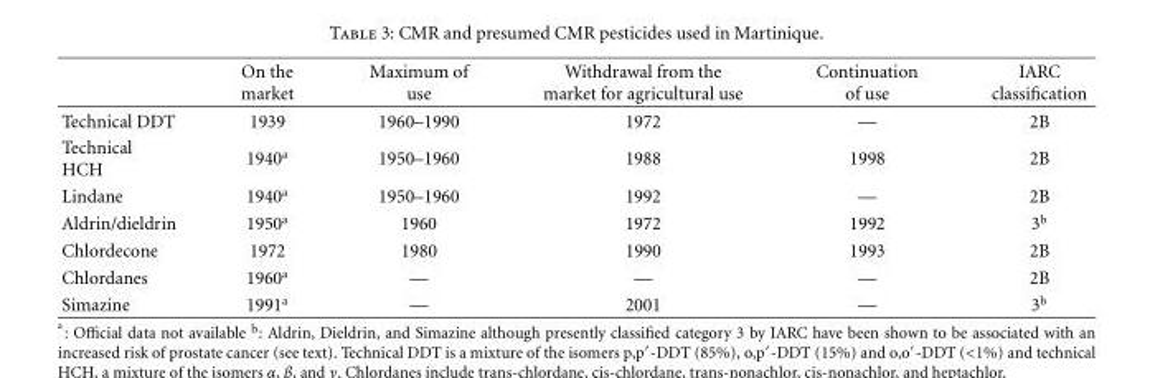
<table><thead><tr><td></td><td>On the market</td><td>Maximum of use</td><td>Withdrawal from the market for agricultural use</td><td>Continuation of use</td><td>IARC classification</td></tr></thead><tbody><tr><td>Technical DDT</td><td>1939</td><td>1960–1990</td><td>1972</td><td>—</td><td>2B</td></tr><tr><td>Technical HCH</td><td>1940<sup>a</sup></td><td>1950–1960</td><td>1988</td><td>1998</td><td>2B</td></tr><tr><td>Lindane</td><td>1940<sup>a</sup></td><td>1950–1960</td><td>1992</td><td>—</td><td>2B</td></tr><tr><td>Aldrin/dieldrin</td><td>1950<sup>a</sup></td><td>1960</td><td>1972</td><td>1992</td><td>3<sup>b</sup></td></tr><tr><td>Chlordecone</td><td>1972</td><td>1980</td><td>1990</td><td>1993</td><td>2B</td></tr><tr><td>Chlordanes</td><td>1960<sup>a</sup></td><td>—</td><td>—</td><td>—</td><td>2B</td></tr><tr><td>Simazine</td><td>1991<sup>a</sup></td><td>—</td><td>2001</td><td>—</td><td>3<sup>b</sup></td></tr></tbody></table>